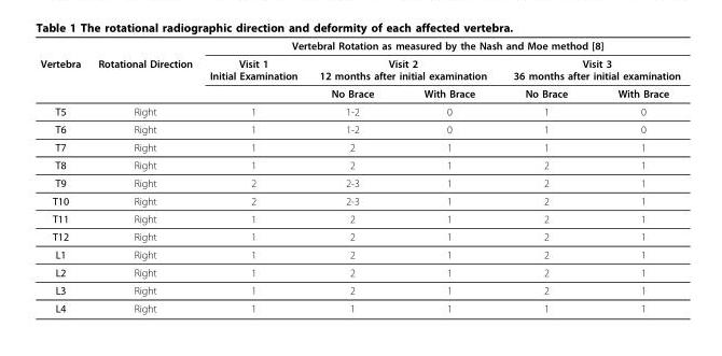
<table><thead><tr><td rowspan="3">Vertebra</td><td rowspan="3">Rotational Direction</td><td colspan="5">Vertebral Rotation as measured by the Nash and Moe method [8]</td></tr><tr><td rowspan="2">Visit 1 Initial Examination</td><td colspan="2">Visit 2 12 months after initial examination</td><td colspan="2">Visit 3 36 months after initial examination</td></tr><tr><td>No Brace</td><td>With Brace</td><td>No Brace</td><td>With Brace</td></tr></thead><tbody><tr><td>T5</td><td>Right</td><td>1</td><td>1-2</td><td>0</td><td>1</td><td>0</td></tr><tr><td>T6</td><td>Right</td><td>1</td><td>1-2</td><td>0</td><td>1</td><td>0</td></tr><tr><td>T7</td><td>Right</td><td>1</td><td>2</td><td>1</td><td>1</td><td>1</td></tr><tr><td>T8</td><td>Right</td><td>1</td><td>2</td><td>1</td><td>2</td><td>1</td></tr><tr><td>T9</td><td>Right</td><td>2</td><td>2-3</td><td>1</td><td>2</td><td>1</td></tr><tr><td>T10</td><td>Right</td><td>2</td><td>2-3</td><td>1</td><td>2</td><td>1</td></tr><tr><td>T11</td><td>Right</td><td>1</td><td>2</td><td>1</td><td>2</td><td>1</td></tr><tr><td>T12</td><td>Right</td><td>1</td><td>2</td><td>1</td><td>2</td><td>1</td></tr><tr><td>L1</td><td>Right</td><td>1</td><td>2</td><td>1</td><td>2</td><td>1</td></tr><tr><td>L2</td><td>Right</td><td>1</td><td>2</td><td>1</td><td>2</td><td>1</td></tr><tr><td>L3</td><td>Right</td><td>1</td><td>2</td><td>1</td><td>2</td><td>1</td></tr><tr><td>L4</td><td>Right</td><td>1</td><td>1</td><td>1</td><td>1</td><td>1</td></tr></tbody></table>